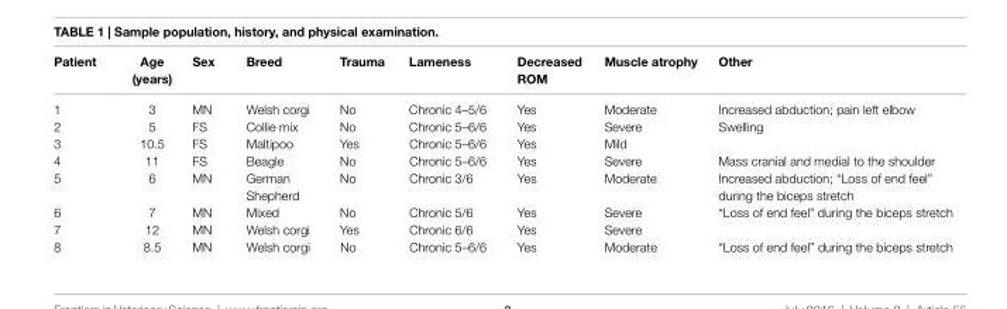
<table><thead><tr><td>Patient</td><td>age (years)</td><td>sex</td><td>Breed</td><td>Trauma</td><td>lameness</td><td>Decreased rOM</td><td>Muscle atrophy</td><td>Other</td></tr></thead><tbody><tr><td>1</td><td>3</td><td>MN</td><td>Welsh corgi</td><td>No</td><td>Chronic 4–5/6</td><td>Yes</td><td>Moderate</td><td>Increased abduction; pain left elbow</td></tr><tr><td>2</td><td>5</td><td>FS</td><td>Collie mix</td><td>No</td><td>Chronic 5–6/6</td><td>Yes</td><td>Severe</td><td>Swelling</td></tr><tr><td>3</td><td>10.5</td><td>FS</td><td>Maltipoo</td><td>Yes</td><td>Chronic 5–6/6</td><td>Yes</td><td>Mild</td><td></td></tr><tr><td>4</td><td>11</td><td>FS</td><td>Beagle</td><td>No</td><td>Chronic 5–6/6</td><td>Yes</td><td>Severe</td><td>Mass cranial and medial to the shoulder</td></tr><tr><td>5</td><td>6</td><td>MN</td><td>German Shepherd</td><td>No</td><td>Chronic 3/6</td><td>Yes</td><td>Moderate</td><td>Increased abduction; “Loss of end feel” during the biceps stretch</td></tr><tr><td>6</td><td>7</td><td>MN</td><td>Mixed</td><td>No</td><td>Chronic 5/6</td><td>Yes</td><td>Severe</td><td>“Loss of end feel” during the biceps stretch</td></tr><tr><td>7</td><td>12</td><td>MN</td><td>Welsh corgi</td><td>Yes</td><td>Chronic 6/6</td><td>Yes</td><td>Severe</td><td></td></tr><tr><td>8</td><td>8.5</td><td>MN</td><td>Welsh corgi</td><td>No</td><td>Chronic 5–6/6</td><td>Yes</td><td>Moderate</td><td>“Loss of end feel” during the biceps stretch</td></tr></tbody></table>